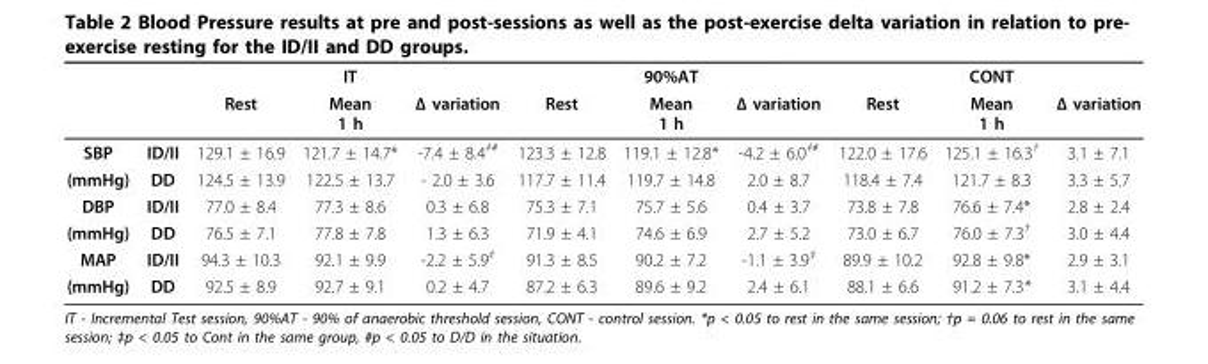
<table><thead><tr><td rowspan="2"></td><td rowspan="2"></td><td rowspan="2">Rest</td><td rowspan="2">IT Mean 1 h</td><td rowspan="2">Δ variation</td><td rowspan="2">Rest</td><td rowspan="2">90%AT Mean 1 h</td><td rowspan="2">Δ variation</td><td rowspan="2">Rest</td><td rowspan="2">CONT Mean 1 h</td><td rowspan="2">Δ variation</td></tr><tr></tr></thead><tbody><tr><td>SBP</td><td>ID/II</td><td>129.1 ± 16.9</td><td>121.7 ± 14.7*</td><td>-7.4 ± 8.4<sup>‡#</sup></td><td>123.3 ± 12.8</td><td>119.1 ± 12.8*</td><td>-4.2 ± 6.0<sup>‡#</sup></td><td>122.0 ± 17.6</td><td>125.1 ± 16.3<sup>†</sup></td><td>3.1 ± 7.1</td></tr><tr><td>(mmHg)</td><td>DD</td><td>124.5 ± 13.9</td><td>122.5 ± 13.7</td><td>- 2.0 ± 3.6</td><td>117.7 ± 11.4</td><td>119.7 ± 14.8</td><td>2.0 ± 8.7</td><td>118.4 ± 7.4</td><td>121.7 ± 8.3</td><td>3.3 ± 5.7</td></tr><tr><td>DBP</td><td>ID/II</td><td>77.0 ± 8.4</td><td>77.3 ± 8.6</td><td>0.3 ± 6.8</td><td>75.3 ± 7.1</td><td>75.7 ± 5.6</td><td>0.4 ± 3.7</td><td>73.8 ± 7.8</td><td>76.6 ± 7.4*</td><td>2.8 ± 2.4</td></tr><tr><td>(mmHg)</td><td>DD</td><td>76.5 ± 7.1</td><td>77.8 ± 7.8</td><td>1.3 ± 6.3</td><td>71.9 ± 4.1</td><td>74.6 ± 6.9</td><td>2.7 ± 5.2</td><td>73.0 ± 6.7</td><td>76.0 ± 7.3<sup>†</sup></td><td>3.0 ± 4.4</td></tr><tr><td>MAP</td><td>ID/II</td><td>94.3 ± 10.3</td><td>92.1 ± 9.9</td><td>-2.2 ± 5.9<sup>‡</sup></td><td>91.3 ± 8.5</td><td>90.2 ± 7.2</td><td>-1.1 ± 3.9<sup>‡</sup></td><td>89.9 ± 10.2</td><td>92.8 ± 9.8*</td><td>2.9 ± 3.1</td></tr><tr><td>(mmHg)</td><td>DD</td><td>92.5 ± 8.9</td><td>92.7 ± 9.1</td><td>0.2 ± 4.7</td><td>87.2 ± 6.3</td><td>89.6 ± 9.2</td><td>2.4 ± 6.1</td><td>88.1 ± 6.6</td><td>91.2 ± 7.3*</td><td>3.1 ± 4.4</td></tr></tbody></table>